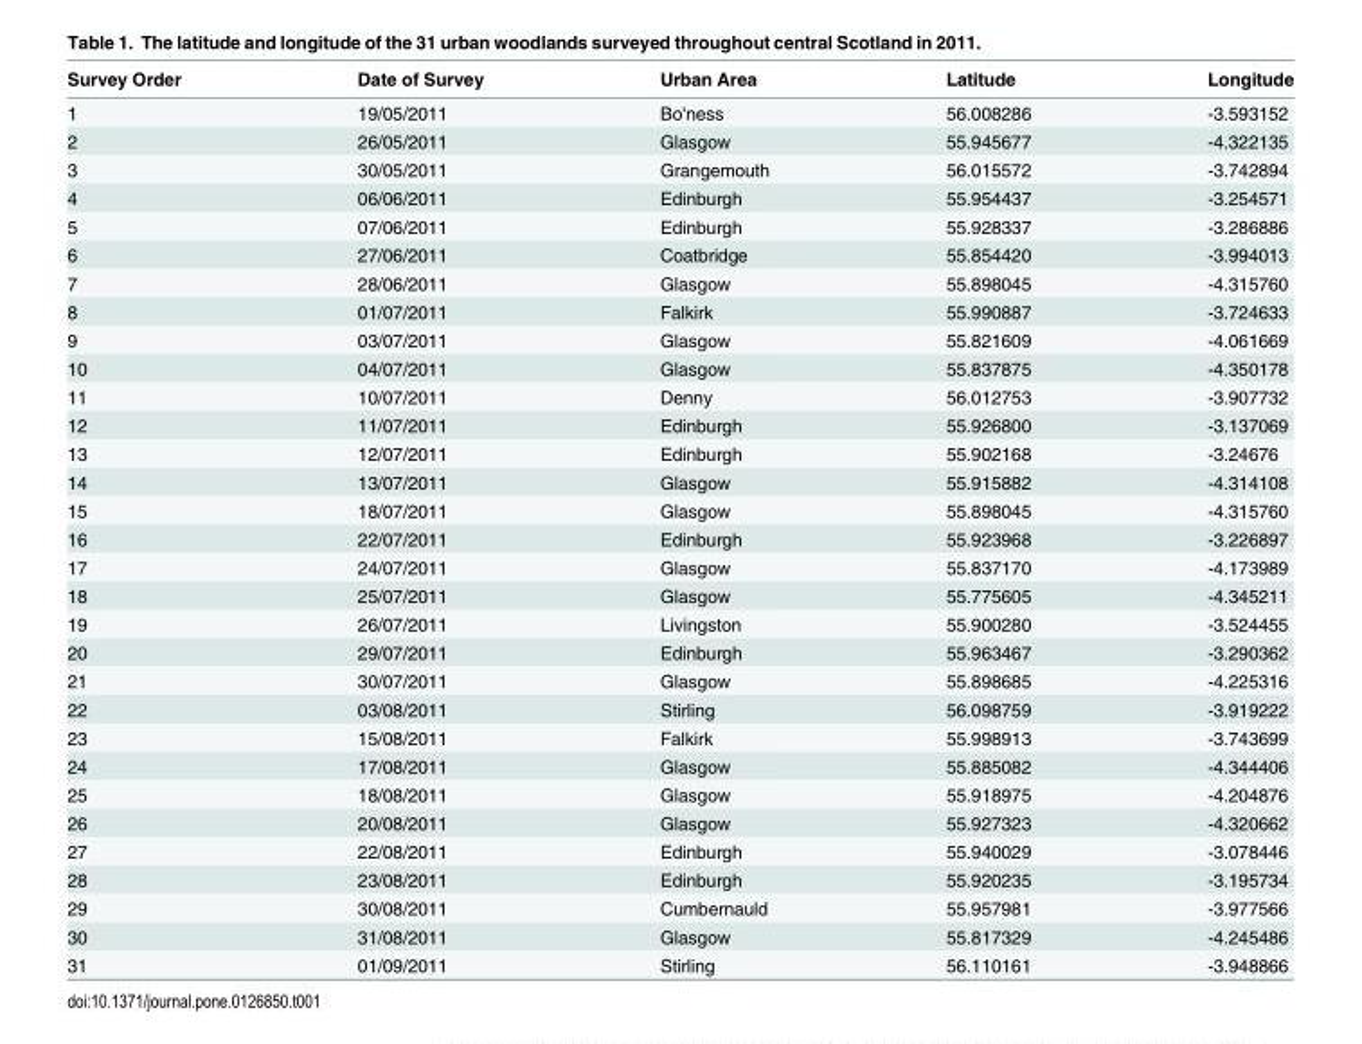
<table><thead><tr><td>Survey Order</td><td>Date of Survey</td><td>Urban Area</td><td>Latitude</td><td>Longitude</td></tr></thead><tbody><tr><td>1</td><td>19/05/2011</td><td>Bo&#x27;ness</td><td>56.008286</td><td>-3.593152</td></tr><tr><td>2</td><td>26/05/2011</td><td>Glasgow</td><td>55.945677</td><td>-4.322135</td></tr><tr><td>3</td><td>30/05/2011</td><td>Grangemouth</td><td>56.015572</td><td>-3.742894</td></tr><tr><td>4</td><td>06/06/2011</td><td>Edinburgh</td><td>55.954437</td><td>-3.254571</td></tr><tr><td>5</td><td>07/06/2011</td><td>Edinburgh</td><td>55.928337</td><td>-3.286886</td></tr><tr><td>6</td><td>27/06/2011</td><td>Coatbridge</td><td>55.854420</td><td>-3.994013</td></tr><tr><td>7</td><td>28/06/2011</td><td>Glasgow</td><td>55.898045</td><td>-4.315760</td></tr><tr><td>8</td><td>01/07/2011</td><td>Falkirk</td><td>55.990887</td><td>-3.724633</td></tr><tr><td>9</td><td>03/07/2011</td><td>Glasgow</td><td>55.821609</td><td>-4.061669</td></tr><tr><td>10</td><td>04/07/2011</td><td>Glasgow</td><td>55.837875</td><td>-4.350178</td></tr><tr><td>11</td><td>10/07/2011</td><td>Denny</td><td>56.012753</td><td>-3.907732</td></tr><tr><td>12</td><td>11/07/2011</td><td>Edinburgh</td><td>55.926800</td><td>-3.137069</td></tr><tr><td>13</td><td>12/07/2011</td><td>Edinburgh</td><td>55.902168</td><td>-3.24676</td></tr><tr><td>14</td><td>13/07/2011</td><td>Glasgow</td><td>55.915882</td><td>-4.314108</td></tr><tr><td>15</td><td>18/07/2011</td><td>Glasgow</td><td>55.898045</td><td>-4.315760</td></tr><tr><td>16</td><td>22/07/2011</td><td>Edinburgh</td><td>55.923968</td><td>-3.226897</td></tr><tr><td>17</td><td>24/07/2011</td><td>Glasgow</td><td>55.837170</td><td>-4.173989</td></tr><tr><td>18</td><td>25/07/2011</td><td>Glasgow</td><td>55.775605</td><td>-4.345211</td></tr><tr><td>19</td><td>26/07/2011</td><td>Livingston</td><td>55.900280</td><td>-3.524455</td></tr><tr><td>20</td><td>29/07/2011</td><td>Edinburgh</td><td>55.963467</td><td>-3.290362</td></tr><tr><td>21</td><td>30/07/2011</td><td>Glasgow</td><td>55.898685</td><td>-4.225316</td></tr><tr><td>22</td><td>03/08/2011</td><td>Stirling</td><td>56.098759</td><td>-3.919222</td></tr><tr><td>23</td><td>15/08/2011</td><td>Falkirk</td><td>55.998913</td><td>-3.743699</td></tr><tr><td>24</td><td>17/08/2011</td><td>Glasgow</td><td>55.885082</td><td>-4.344406</td></tr><tr><td>25</td><td>18/08/2011</td><td>Glasgow</td><td>55.918975</td><td>-4.204876</td></tr><tr><td>26</td><td>20/08/2011</td><td>Glasgow</td><td>55.927323</td><td>-4.320662</td></tr><tr><td>27</td><td>22/08/2011</td><td>Edinburgh</td><td>55.940029</td><td>-3.078446</td></tr><tr><td>28</td><td>23/08/2011</td><td>Edinburgh</td><td>55.920235</td><td>-3.195734</td></tr><tr><td>29</td><td>30/08/2011</td><td>Cumbernauld</td><td>55.957981</td><td>-3.977566</td></tr><tr><td>30</td><td>31/08/2011</td><td>Glasgow</td><td>55.817329</td><td>-4.245486</td></tr><tr><td>31</td><td>01/09/2011</td><td>Stirling</td><td>56.110161</td><td>-3.948866</td></tr></tbody></table>